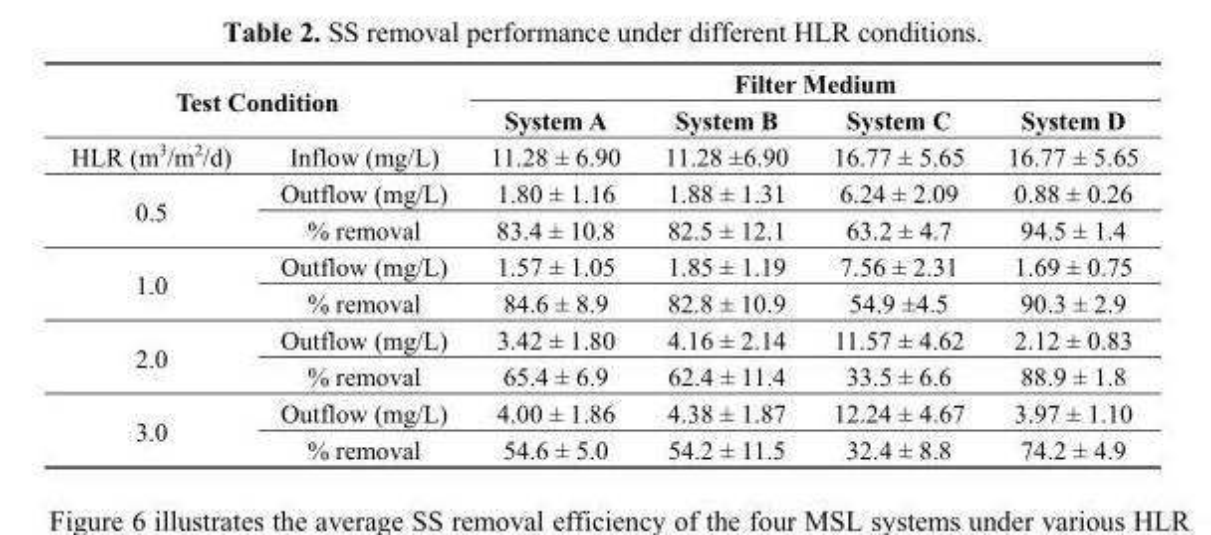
<table><thead><tr><td rowspan="2" colspan="2">Test Condition</td><td colspan="4">Filter Medium</td></tr><tr><td rowspan="2">System A 11.28 ± 6.90</td><td rowspan="2">System B 11.28 ±6.90</td><td rowspan="2">System C 16.77 ± 5.65</td><td rowspan="2">System D 16.77 ± 5.65</td></tr><tr><td>HLR (m<sup>3</sup>/m<sup>2</sup>/d)</td><td>Inflow (mg/L)</td></tr></thead><tbody><tr><td rowspan="2">0.5</td><td>Outflow (mg/L)</td><td>1.80 ± 1.16</td><td>1.88 ± 1.31</td><td>6.24 ± 2.09</td><td>0.88 ± 0.26</td></tr><tr><td>% removal</td><td>83.4 ± 10.8</td><td>82.5 ± 12.1</td><td>63.2 ± 4.7</td><td>94.5 ± 1.4</td></tr><tr><td rowspan="2">1.0</td><td>Outflow (mg/L)</td><td>1.57 ± 1.05</td><td>1.85 ± 1.19</td><td>7.56 ± 2.31</td><td>1.69 ± 0.75</td></tr><tr><td>% removal</td><td>84.6 ± 8.9</td><td>82.8 ± 10.9</td><td>54.9 ±4.5</td><td>90.3 ± 2.9</td></tr><tr><td rowspan="2">2.0</td><td>Outflow (mg/L)</td><td>3.42 ± 1.80</td><td>4.16 ± 2.14</td><td>11.57 ± 4.62</td><td>2.12 ± 0.83</td></tr><tr><td>% removal</td><td>65.4 ± 6.9</td><td>62.4 ± 11.4</td><td>33.5 ± 6.6</td><td>88.9 ± 1.8</td></tr><tr><td rowspan="2">3.0</td><td>Outflow (mg/L)</td><td>4.00 ± 1.86</td><td>4.38 ± 1.87</td><td>12.24 ± 4.67</td><td>3.97 ± 1.10</td></tr><tr><td>% removal</td><td>54.6 ± 5.0</td><td>54.2 ± 11.5</td><td>32.4 ± 8.8</td><td>74.2 ± 4.9</td></tr></tbody></table>